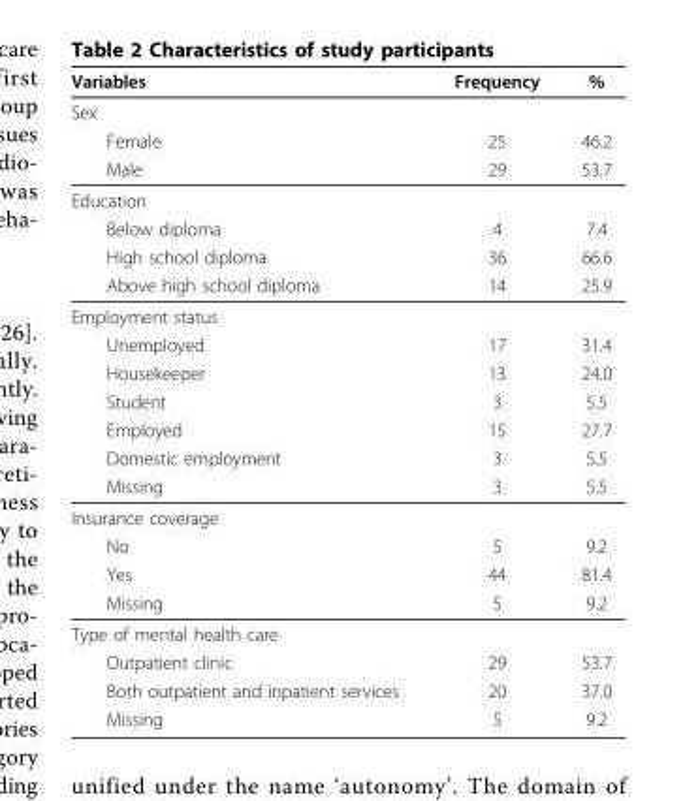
<table><thead><tr><td>Variables</td><td>Frequency</td><td>%</td></tr></thead><tbody><tr><td colspan="3">Sex</td></tr><tr><td>Female</td><td>25</td><td>46.2</td></tr><tr><td>Male</td><td>29</td><td>53.7</td></tr><tr><td colspan="3">Education</td></tr><tr><td>Below diploma</td><td>4</td><td>7.4</td></tr><tr><td>High school diploma</td><td>36</td><td>66.6</td></tr><tr><td>Above high school diploma</td><td>14</td><td>25.9</td></tr><tr><td colspan="3">Employment status</td></tr><tr><td>Unemployed</td><td>17</td><td>31.4</td></tr><tr><td>Housekeeper</td><td>13</td><td>24.0</td></tr><tr><td>Student</td><td>3</td><td>5.5</td></tr><tr><td>Employed</td><td>15</td><td>27.7</td></tr><tr><td>Domestic employment</td><td>3</td><td>5.5</td></tr><tr><td>Missing</td><td>3</td><td>5.5</td></tr><tr><td colspan="3">Insurance coverage</td></tr><tr><td>No</td><td>5</td><td>9.2</td></tr><tr><td>Yes</td><td>44</td><td>81.4</td></tr><tr><td>Missing</td><td>5</td><td>9.2</td></tr><tr><td colspan="3">Type of mental health care</td></tr><tr><td>Outpatient clinic</td><td>29</td><td>53.7</td></tr><tr><td>Both outpatient and inpatient services</td><td>20</td><td>37.0</td></tr><tr><td>Missing</td><td>5</td><td>9.2</td></tr></tbody></table>